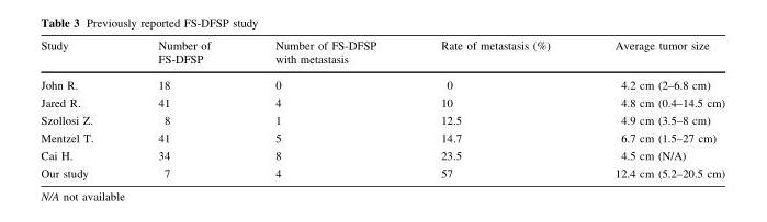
<table><thead><tr><td>Study</td><td>Number of FS-DFSP</td><td>Number of FS-DFSP with metastasis</td><td>Rate of metastasis (%)</td><td>Average tumor size</td></tr></thead><tbody><tr><td>John R.</td><td>18</td><td>0</td><td>0</td><td>4.2 cm (2–6.8 cm)</td></tr><tr><td>Jared R.</td><td>41</td><td>4</td><td>10</td><td>4.8 cm (0.4–14.5 cm)</td></tr><tr><td>Szollosi Z.</td><td>8</td><td>1</td><td>12.5</td><td>4.9 cm (3.5–8 cm)</td></tr><tr><td>Mentzel T.</td><td>41</td><td>5</td><td>14.7</td><td>6.7 cm (1.5–27 cm)</td></tr><tr><td>Cai H.</td><td>34</td><td>8</td><td>23.5</td><td>4.5 cm (N/A)</td></tr><tr><td>Our study</td><td>7</td><td>4</td><td>57</td><td>12.4 cm (5.2–20.5 cm)</td></tr></tbody></table>